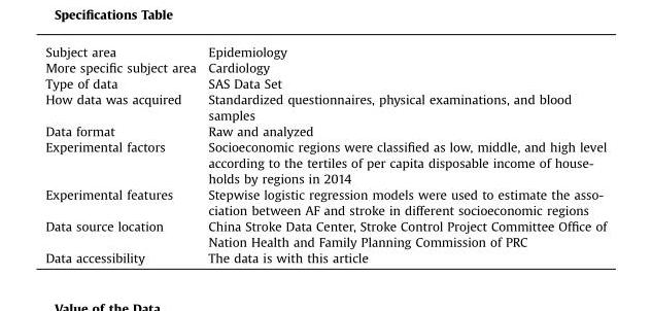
<table><tbody><tr><td>Subject area</td><td>Epidemiology</td></tr><tr><td>More specific subject area</td><td>Cardiology</td></tr><tr><td>Type of data</td><td>SAS Data Set</td></tr><tr><td>How data was acquired</td><td>Standardized questionnaires, physical examinations, and blood samples</td></tr><tr><td>Data format</td><td>Raw and analyzed</td></tr><tr><td>Experimental factors</td><td>Socioeconomic regions were classified as low, middle, and high level according to the tertiles of per capita disposable income of house- holds by regions in 2014</td></tr><tr><td>Experimental features</td><td>Stepwise logistic regression models were used to estimate the asso- ciation between AF and stroke in different socioeconomic regions</td></tr><tr><td>Data source location</td><td>China Stroke Data Center, Stroke Control Project Committee Office of Nation Health and Family Planning Commission of PRC</td></tr><tr><td>Data accessibility</td><td>The data is with this article</td></tr></tbody></table>